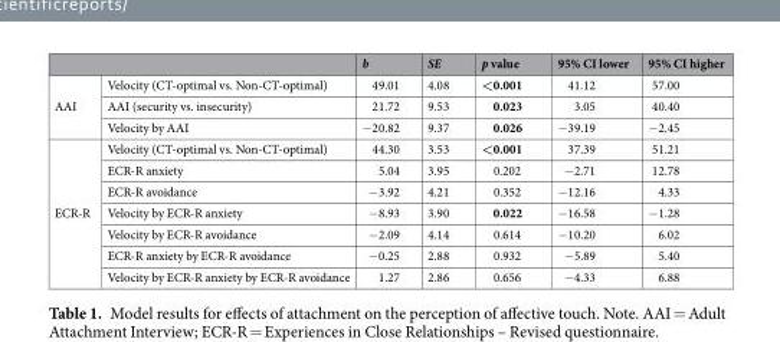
<table><thead><tr><td></td><td></td><td>b</td><td>SE</td><td>p value</td><td>95% CI lower</td><td>95% CI higher</td></tr></thead><tbody><tr><td rowspan="3">AAI</td><td>Velocity (CT-optimal vs. Non-CT-optimal)</td><td>49.01</td><td>4.08</td><td>&lt;0.001</td><td>41.12</td><td>57.00</td></tr><tr><td>AAI (security vs. insecurity)</td><td>21.72</td><td>9.53</td><td>0.023</td><td>3.05</td><td>40.40</td></tr><tr><td>Velocity by AAI</td><td>−20.82</td><td>9.37</td><td>0.026</td><td>−39.19</td><td>−2.45</td></tr><tr><td rowspan="7">ECR-R</td><td>Velocity (CT-optimal vs. Non-CT-optimal)</td><td>44.30</td><td>3.53</td><td>&lt;0.001</td><td>37.39</td><td>51.21</td></tr><tr><td>ECR-R anxiety</td><td>5.04</td><td>3.95</td><td>0.202</td><td>−2.71</td><td>12.78</td></tr><tr><td>ECR-R avoidance</td><td>−3.92</td><td>4.21</td><td>0.352</td><td>−12.16</td><td>4.33</td></tr><tr><td>Velocity by ECR-R anxiety</td><td>−8.93</td><td>3.90</td><td>0.022</td><td>−16.58</td><td>−1.28</td></tr><tr><td>Velocity by ECR-R avoidance</td><td>−2.09</td><td>4.14</td><td>0.614</td><td>−10.20</td><td>6.02</td></tr><tr><td>ECR-R anxiety by ECR-R avoidance</td><td>−0.25</td><td>2.88</td><td>0.932</td><td>−5.89</td><td>5.40</td></tr><tr><td>Velocity by ECR-R anxiety by ECR-R avoidance</td><td>1.27</td><td>2.86</td><td>0.656</td><td>−4.33</td><td>6.88</td></tr></tbody></table>